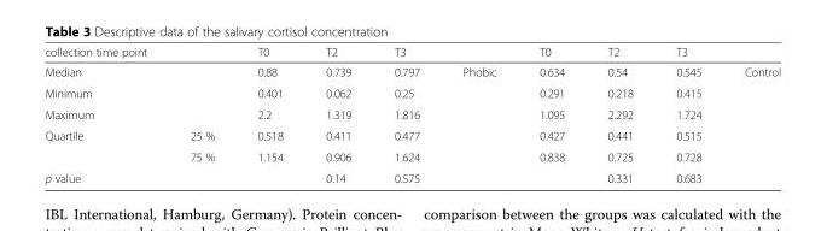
<table><thead><tr><td>collection time point</td><td></td><td>T0</td><td>T2</td><td>T3</td><td></td><td>T0</td><td>T2</td><td>T3</td><td></td></tr></thead><tbody><tr><td>Median</td><td></td><td>0.88</td><td>0.739</td><td>0.797</td><td rowspan="6">Phobic</td><td>0.634</td><td>0.54</td><td>0.545</td><td rowspan="6">Control</td></tr><tr><td>Minimum</td><td></td><td>0.401</td><td>0.062</td><td>0.25</td><td>0.291</td><td>0.218</td><td>0.415</td></tr><tr><td>Maximum</td><td></td><td>2.2</td><td>1.319</td><td>1.816</td><td>1.095</td><td>2.292</td><td>1.724</td></tr><tr><td rowspan="2">Quartile</td><td>25 %</td><td>0.518</td><td>0.411</td><td>0.477</td><td>0.427</td><td>0.441</td><td>0.515</td></tr><tr><td>75 %</td><td>1.154</td><td>0.906</td><td>1.624</td><td>0.838</td><td>0.725</td><td>0.728</td></tr><tr><td>p value</td><td></td><td></td><td>0.14</td><td>0.575</td><td></td><td>0.331</td><td>0.683</td></tr></tbody></table>